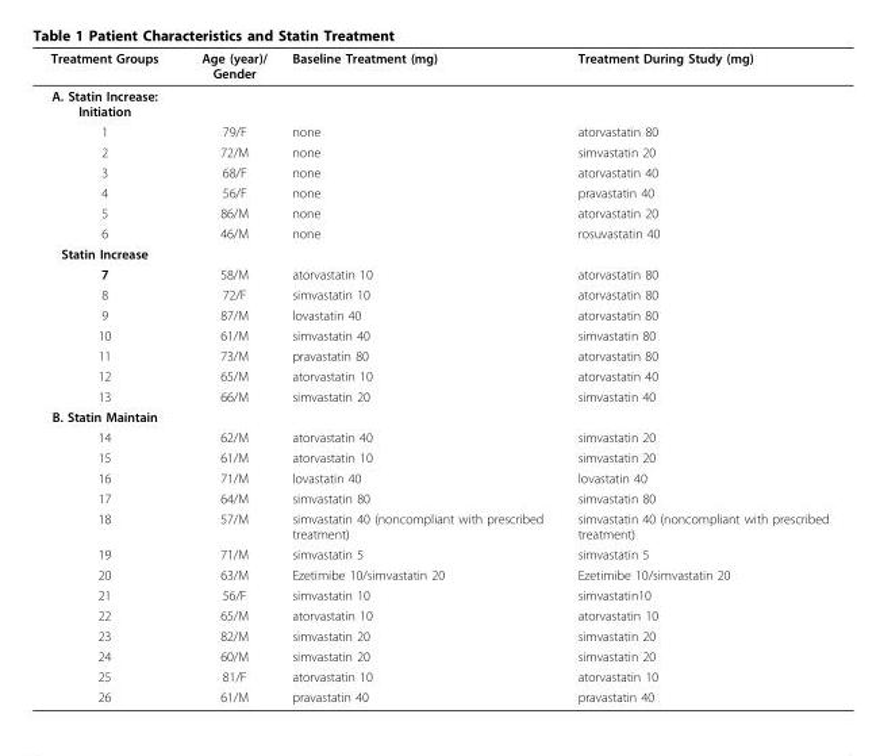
<table><thead><tr><td>Treatment Groups</td><td>Age (year)/ Gender</td><td>Baseline Treatment (mg)</td><td>Treatment During Study (mg)</td></tr></thead><tbody><tr><td colspan="4">A. Statin Increase: Initiation</td></tr><tr><td>1</td><td>79/F</td><td>none</td><td>atorvastatin 80</td></tr><tr><td>2</td><td>72/M</td><td>none</td><td>simvastatin 20</td></tr><tr><td>3</td><td>68/F</td><td>none</td><td>atorvastatin 40</td></tr><tr><td>4</td><td>56/F</td><td>none</td><td>pravastatin 40</td></tr><tr><td>5</td><td>86/M</td><td>none</td><td>atorvastatin 20</td></tr><tr><td>6</td><td>46/M</td><td>none</td><td>rosuvastatin 40</td></tr><tr><td colspan="4">Statin Increase</td></tr><tr><td>7</td><td>58/M</td><td>atorvastatin 10</td><td>atorvastatin 80</td></tr><tr><td>8</td><td>72/F</td><td>simvastatin 10</td><td>atorvastatin 80</td></tr><tr><td>9</td><td>87/M</td><td>lovastatin 40</td><td>atorvastatin 80</td></tr><tr><td>10</td><td>61/M</td><td>simvastatin 40</td><td>simvastatin 80</td></tr><tr><td>11</td><td>73/M</td><td>pravastatin 80</td><td>atorvastatin 80</td></tr><tr><td>12</td><td>65/M</td><td>atorvastatin 10</td><td>atorvastatin 40</td></tr><tr><td>13</td><td>66/M</td><td>simvastatin 20</td><td>simvastatin 40</td></tr><tr><td colspan="4">B. Statin Maintain</td></tr><tr><td>14</td><td>62/M</td><td>atorvastatin 40</td><td>simvastatin 20</td></tr><tr><td>15</td><td>61/M</td><td>atorvastatin 10</td><td>simvastatin 20</td></tr><tr><td>16</td><td>71/M</td><td>lovastatin 40</td><td>lovastatin 40</td></tr><tr><td>17</td><td>64/M</td><td>simvastatin 80</td><td>simvastatin 80</td></tr><tr><td>18</td><td>57/M</td><td>simvastatin 40 (noncompliant with prescribed treatment)</td><td>simvastatin 40 (noncompliant with prescribed treatment)</td></tr><tr><td>19</td><td>71/M</td><td>simvastatin 5</td><td>simvastatin 5</td></tr><tr><td>20</td><td>63/M</td><td>Ezetimibe 10/simvastatin 20</td><td>Ezetimibe 10/simvastatin 20</td></tr><tr><td>21</td><td>56/F</td><td>simvastatin 10</td><td>simvastatin10</td></tr><tr><td>22</td><td>65/M</td><td>atorvastatin 10</td><td>atorvastatin 10</td></tr><tr><td>23</td><td>82/M</td><td>simvastatin 20</td><td>simvastatin 20</td></tr><tr><td>24</td><td>60/M</td><td>simvastatin 20</td><td>simvastatin 20</td></tr><tr><td>25</td><td>81/F</td><td>atorvastatin 10</td><td>atorvastatin 10</td></tr><tr><td>26</td><td>61/M</td><td>pravastatin 40</td><td>pravastatin 40</td></tr></tbody></table>